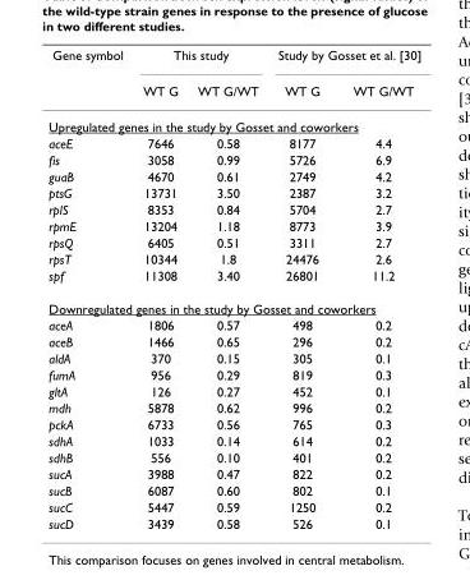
<table><thead><tr><td rowspan="2">Gene symbol</td><td colspan="2">This study</td><td colspan="2">Study by Gosset et al. [30]</td></tr><tr><td>WT G</td><td>WT G/WT</td><td>WT G</td><td>WT G/WT</td></tr></thead><tbody><tr><td colspan="5">Upregulated genes in the study by Gosset and coworkers</td></tr><tr><td>aceE</td><td>7646</td><td>0.58</td><td>8177</td><td>4.4</td></tr><tr><td>fis</td><td>3058</td><td>0.99</td><td>5726</td><td>6.9</td></tr><tr><td>guaB</td><td>4670</td><td>0.61</td><td>2749</td><td>4.2</td></tr><tr><td>ptsG</td><td>13731</td><td>3.50</td><td>2387</td><td>3.2</td></tr><tr><td>rplS</td><td>8353</td><td>0.84</td><td>5704</td><td>2.7</td></tr><tr><td>rpmE</td><td>13204</td><td>1.18</td><td>8773</td><td>3.9</td></tr><tr><td>rpsQ</td><td>6405</td><td>0.51</td><td>3311</td><td>2.7</td></tr><tr><td>rpsT</td><td>10344</td><td>1.8</td><td>24476</td><td>2.6</td></tr><tr><td>spf</td><td>11308</td><td>3.40</td><td>26801</td><td>11.2</td></tr><tr><td colspan="5">Downregulated genes in the study by Gosset and coworkers</td></tr><tr><td>aceA</td><td>1806</td><td>0.57</td><td>498</td><td>0.2</td></tr><tr><td>aceB</td><td>1466</td><td>0.65</td><td>296</td><td>0.2</td></tr><tr><td>aldA</td><td>370</td><td>0.15</td><td>305</td><td>0.1</td></tr><tr><td>fumA</td><td>956</td><td>0.29</td><td>819</td><td>0.3</td></tr><tr><td>gltA</td><td>126</td><td>0.27</td><td>452</td><td>0.1</td></tr><tr><td>mdh</td><td>5878</td><td>0.62</td><td>996</td><td>0.2</td></tr><tr><td>pckA</td><td>6733</td><td>0.56</td><td>765</td><td>0.3</td></tr><tr><td>sdhA</td><td>1033</td><td>0.14</td><td>614</td><td>0.2</td></tr><tr><td>sdhB</td><td>556</td><td>0.10</td><td>401</td><td>0.2</td></tr><tr><td>sucA</td><td>3988</td><td>0.47</td><td>822</td><td>0.2</td></tr><tr><td>sucB</td><td>6087</td><td>0.60</td><td>802</td><td>0.1</td></tr><tr><td>sucC</td><td>5447</td><td>0.59</td><td>1250</td><td>0.2</td></tr><tr><td>sucD</td><td>3439</td><td>0.58</td><td>526</td><td>0.1</td></tr></tbody></table>